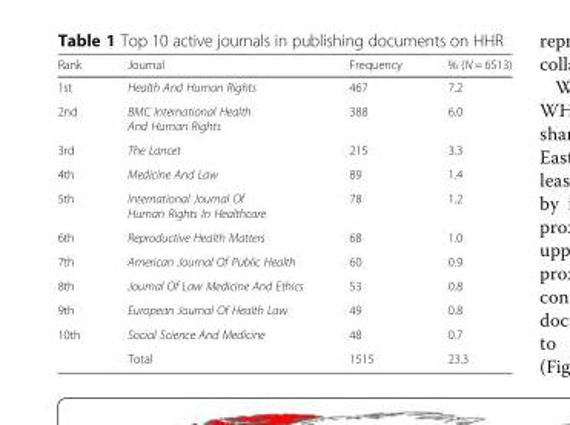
<table><thead><tr><td>Rank</td><td>Journal</td><td>Frequency</td><td>% (N = 6513)</td></tr></thead><tbody><tr><td>1st</td><td>Health And Human Rights</td><td>467</td><td>7.2</td></tr><tr><td>2nd</td><td>BMC International Health And Human Rights</td><td>388</td><td>6.0</td></tr><tr><td>3rd</td><td>The Lancet</td><td>215</td><td>3.3</td></tr><tr><td>4th</td><td>Medicine And Law</td><td>89</td><td>1.4</td></tr><tr><td>5th</td><td>International Journal Of Human Rights In Healthcare</td><td>78</td><td>1.2</td></tr><tr><td>6th</td><td>Reproductive Health Matters</td><td>68</td><td>1.0</td></tr><tr><td>7th</td><td>American Journal Of Public Health</td><td>60</td><td>0.9</td></tr><tr><td>8th</td><td>Journal Of Law Medicine And Ethics</td><td>53</td><td>0.8</td></tr><tr><td>9th</td><td>European Journal Of Health Law</td><td>49</td><td>0.8</td></tr><tr><td rowspan="2">10th</td><td>Social Science And Medicine</td><td>48</td><td>0.7</td></tr><tr><td>Total</td><td>1515</td><td>23.3</td></tr></tbody></table>